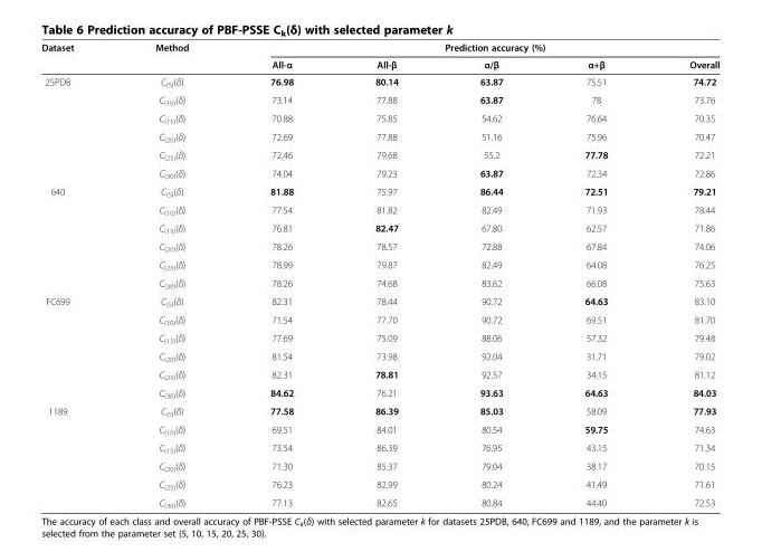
<table><thead><tr><td rowspan="2">Dataset</td><td rowspan="2">Method</td><td colspan="5">Prediction accuracy (%)</td></tr><tr><td>All-α</td><td>All-β</td><td>α/β</td><td>α+β</td><td>Overall</td></tr></thead><tbody><tr><td rowspan="6">25PDB</td><td>C<sub>(5)</sub>(δ)</td><td>76.98</td><td>80.14</td><td>63.87</td><td>75.51</td><td>74.72</td></tr><tr><td>C<sub>(10)</sub>(δ)</td><td>73.14</td><td>77.88</td><td>63.87</td><td>78</td><td>73.76</td></tr><tr><td>C<sub>(15)</sub>(δ)</td><td>70.88</td><td>75.85</td><td>54.62</td><td>76.64</td><td>70.35</td></tr><tr><td>C<sub>(20)</sub>(δ)</td><td>72.69</td><td>77.88</td><td>51.16</td><td>75.96</td><td>70.47</td></tr><tr><td>C<sub>(25)</sub>(δ)</td><td>72.46</td><td>79.68</td><td>55.2</td><td>77.78</td><td>72.21</td></tr><tr><td>C<sub>(30)</sub>(δ)</td><td>74.04</td><td>79.23</td><td>63.87</td><td>72.34</td><td>72.86</td></tr><tr><td rowspan="6">640</td><td>C<sub>(5)</sub>(δ)</td><td>81.88</td><td>75.97</td><td>86.44</td><td>72.51</td><td>79.21</td></tr><tr><td>C<sub>(10)</sub>(δ)</td><td>77.54</td><td>81.82</td><td>82.49</td><td>71.93</td><td>78.44</td></tr><tr><td>C<sub>(15)</sub>(δ)</td><td>76.81</td><td>82.47</td><td>67.80</td><td>62.57</td><td>71.86</td></tr><tr><td>C<sub>(20)</sub>(δ)</td><td>78.26</td><td>78.57</td><td>72.88</td><td>67.84</td><td>74.06</td></tr><tr><td>C<sub>(25)</sub>(δ)</td><td>78.99</td><td>79.87</td><td>82.49</td><td>64.08</td><td>76.25</td></tr><tr><td>C<sub>(30)</sub>(δ)</td><td>78.26</td><td>74.68</td><td>83.62</td><td>66.08</td><td>75.63</td></tr><tr><td rowspan="6">FC699</td><td>C<sub>(5)</sub>(δ)</td><td>82.31</td><td>78.44</td><td>90.72</td><td>64.63</td><td>83.10</td></tr><tr><td>C<sub>(10)</sub>(δ)</td><td>71.54</td><td>77.70</td><td>90.72</td><td>69.51</td><td>81.70</td></tr><tr><td>C<sub>(15)</sub>(δ)</td><td>77.69</td><td>75.09</td><td>88.06</td><td>57.32</td><td>79.48</td></tr><tr><td>C<sub>(20)</sub>(δ)</td><td>81.54</td><td>73.98</td><td>92.04</td><td>31.71</td><td>79.02</td></tr><tr><td>C<sub>(25)</sub>(δ)</td><td>82.31</td><td>78.81</td><td>92.57</td><td>34.15</td><td>81.12</td></tr><tr><td>C<sub>(30)</sub>(δ)</td><td>84.62</td><td>76.21</td><td>93.63</td><td>64.63</td><td>84.03</td></tr><tr><td rowspan="6">1189</td><td>C<sub>(5)</sub>(δ)</td><td>77.58</td><td>86.39</td><td>85.03</td><td>58.09</td><td>77.93</td></tr><tr><td>C<sub>(10)</sub>(δ)</td><td>69.51</td><td>84.01</td><td>80.54</td><td>59.75</td><td>74.63</td></tr><tr><td>C<sub>(15)</sub>(δ)</td><td>73.54</td><td>86.39</td><td>76.95</td><td>43.15</td><td>71.34</td></tr><tr><td>C<sub>(20)</sub>(δ)</td><td>71.30</td><td>85.37</td><td>79.04</td><td>38.17</td><td>70.15</td></tr><tr><td>C<sub>(25)</sub>(δ)</td><td>76.23</td><td>82.99</td><td>80.24</td><td>41.49</td><td>71.61</td></tr><tr><td>C<sub>(30)</sub>(δ)</td><td>77.13</td><td>82.65</td><td>80.84</td><td>44.40</td><td>72.53</td></tr></tbody></table>